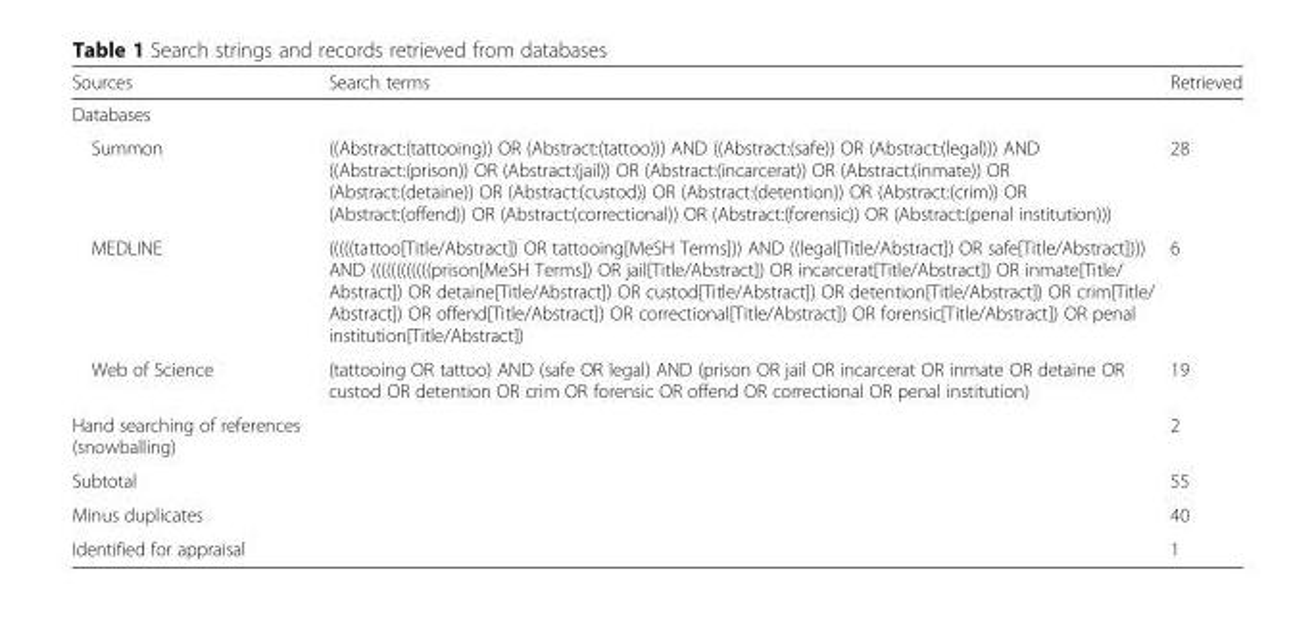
<table><thead><tr><td>Sources</td><td>Search terms</td><td>Retrieved</td></tr></thead><tbody><tr><td colspan="3">Databases</td></tr><tr><td>Summon</td><td>((Abstract:(tattooing)) OR (Abstract:(tattoo))) AND ((Abstract:(safe)) OR (Abstract:(legal))) AND ((Abstract:(prison)) OR (Abstract:(jail)) OR (Abstract:(incarcerat)) OR (Abstract:(inmate)) OR (Abstract:(detaine)) OR (Abstract:(custod)) OR (Abstract:(detention)) OR (Abstract:(crim)) OR (Abstract:(offend)) OR (Abstract:(correctional)) OR (Abstract:(forensic)) OR (Abstract:(penal institution)))</td><td>28</td></tr><tr><td>MEDLINE</td><td>(((((tattoo[Title/Abstract]) OR tattooing[MeSH Terms])) AND ((legal[Title/Abstract]) OR safe[Title/Abstract]))) AND ((((((((((((prison[MeSH Terms]) OR jail[Title/Abstract]) OR incarcerat[Title/Abstract]) OR inmate[Title/ Abstract]) OR detaine[Title/Abstract]) OR custod[Title/Abstract]) OR detention[Title/Abstract]) OR crim[Title/ Abstract]) OR offend[Title/Abstract]) OR correctional[Title/Abstract]) OR forensic[Title/Abstract]) OR penal institution[Title/Abstract])</td><td>6</td></tr><tr><td>Web of Science</td><td>(tattooing OR tattoo) AND (safe OR legal) AND (prison OR jail OR incarcerat OR inmate OR detaine OR custod OR detention OR crim OR forensic OR offend OR correctional OR penal institution)</td><td>19</td></tr><tr><td>Hand searching of references (snowballing)</td><td></td><td>2</td></tr><tr><td>Subtotal</td><td></td><td>55</td></tr><tr><td>Minus duplicates</td><td></td><td>40</td></tr><tr><td>Identified for appraisal</td><td></td><td>1</td></tr></tbody></table>